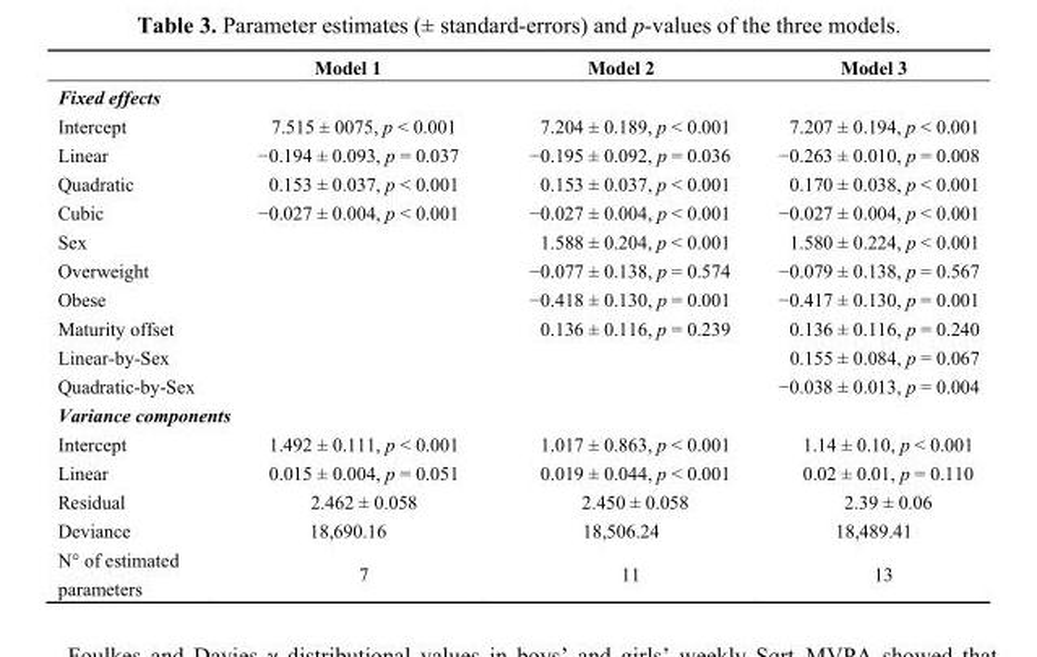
<table><thead><tr><td></td><td>Model 1</td><td>Model 2</td><td>Model 3</td></tr></thead><tbody><tr><td colspan="4">Fixed effects</td></tr><tr><td>Intercept</td><td>7.515 ± 0075, p &lt; 0.001</td><td>7.204 ± 0.189, p &lt; 0.001</td><td>7.207 ± 0.194, p &lt; 0.001</td></tr><tr><td>Linear</td><td>−0.194 ± 0.093, p = 0.037</td><td>−0.195 ± 0.092, p = 0.036</td><td>−0.263 ± 0.010, p = 0.008</td></tr><tr><td>Quadratic</td><td>0.153 ± 0.037, p &lt; 0.001</td><td>0.153 ± 0.037, p &lt; 0.001</td><td>0.170 ± 0.038, p &lt; 0.001</td></tr><tr><td>Cubic</td><td>−0.027 ± 0.004, p &lt; 0.001</td><td>−0.027 ± 0.004, p &lt; 0.001</td><td>−0.027 ± 0.004, p &lt; 0.001</td></tr><tr><td>Sex</td><td></td><td>1.588 ± 0.204, p &lt; 0.001</td><td>1.580 ± 0.224, p &lt; 0.001</td></tr><tr><td>Overweight</td><td></td><td>−0.077 ± 0.138, p = 0.574</td><td>−0.079 ± 0.138, p = 0.567</td></tr><tr><td>Obese</td><td></td><td>−0.418 ± 0.130, p = 0.001</td><td>−0.417 ± 0.130, p = 0.001</td></tr><tr><td>Maturity offset</td><td></td><td>0.136 ± 0.116, p = 0.239</td><td>0.136 ± 0.116, p = 0.240</td></tr><tr><td>Linear-by-Sex</td><td></td><td></td><td>0.155 ± 0.084, p = 0.067</td></tr><tr><td>Quadratic-by-Sex</td><td></td><td></td><td>−0.038 ± 0.013, p = 0.004</td></tr><tr><td colspan="4">Variance components</td></tr><tr><td>Intercept</td><td>1.492 ± 0.111, p &lt; 0.001</td><td>1.017 ± 0.863, p &lt; 0.001</td><td>1.14 ± 0.10, p &lt; 0.001</td></tr><tr><td>Linear</td><td>0.015 ± 0.004, p = 0.051</td><td>0.019 ± 0.044, p &lt; 0.001</td><td>0.02 ± 0.01, p = 0.110</td></tr><tr><td>Residual</td><td>2.462 ± 0.058</td><td>2.450 ± 0.058</td><td>2.39 ± 0.06</td></tr><tr><td>Deviance</td><td>18,690.16</td><td>18,506.24</td><td>18,489.41</td></tr><tr><td>N° of estimated parameters</td><td>7</td><td>11</td><td>13</td></tr></tbody></table>